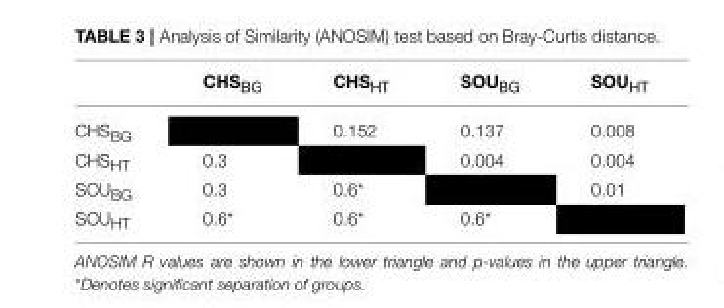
<table><thead><tr><td></td><td>CHS<sub>BG</sub></td><td>CHS<sub>HT</sub></td><td>SOU<sub>BG</sub></td><td>SOU<sub>HT</sub></td></tr></thead><tbody><tr><td>CHS<sub>BG</sub></td><td></td><td>0.152</td><td>0.137</td><td>0.008</td></tr><tr><td>CHS<sub>HT</sub></td><td>0.3</td><td></td><td>0.004</td><td>0.004</td></tr><tr><td>SOU<sub>BG</sub></td><td>0.3</td><td>0.6*</td><td></td><td>0.01</td></tr><tr><td>SOU<sub>HT</sub></td><td>0.6*</td><td>0.6*</td><td>0.6*</td><td></td></tr></tbody></table>